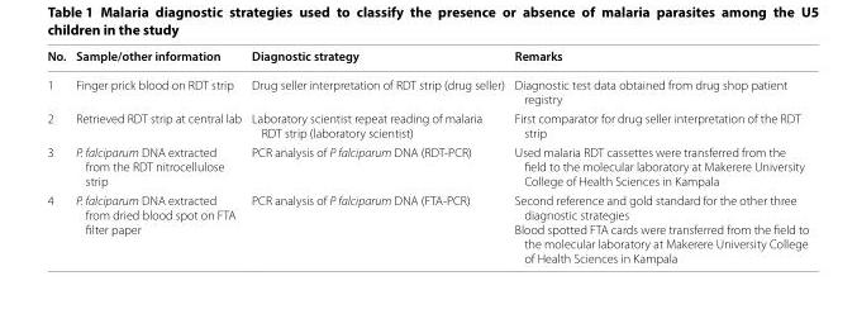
<table><thead><tr><td>No.</td><td>Sample/other information</td><td>Diagnostic strategy</td><td>Remarks</td></tr></thead><tbody><tr><td>1</td><td>Finger prick blood on RDT strip</td><td>Drug seller interpretation of RDT strip (drug seller)</td><td>Diagnostic test data obtained from drug shop patient registry</td></tr><tr><td>2</td><td>Retrieved RDT strip at central lab</td><td>Laboratory scientist repeat reading of malaria RDT strip (laboratory scientist)</td><td>First comparator for drug seller interpretation of the RDT strip</td></tr><tr><td>3</td><td>P. falciparum DNA extracted from the RDT nitrocellulose strip</td><td>PCR analysis of P falciparum DNA (RDT-PCR)</td><td>Used malaria RDT cassettes were transferred from the field to the molecular laboratory at Makerere University College of Health Sciences in Kampala</td></tr><tr><td>4</td><td>P. falciparum DNA extracted from dried blood spot on FTA filter paper</td><td>PCR analysis of P falciparum DNA (FTA-PCR)</td><td>Second reference and gold standard for the other three diagnostic strategies Blood spotted FTA cards were transferred from the field to the molecular laboratory at Makerere University College of Health Sciences in Kampala</td></tr></tbody></table>